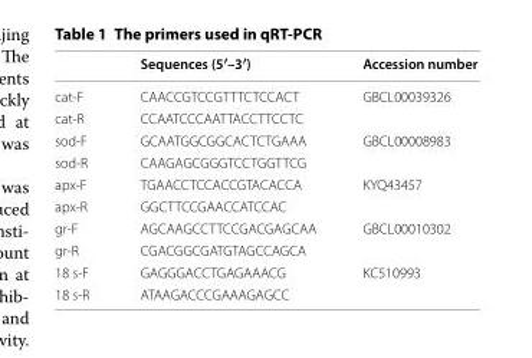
<table><thead><tr><td></td><td>Sequences (5′–3′)</td><td>Accession number</td></tr></thead><tbody><tr><td>cat-F</td><td>CAACCGTCCGTTTCTCCACT</td><td rowspan="2">GBCL00039326</td></tr><tr><td>cat-R</td><td>CCAATCCCAATTACCTTCCTC</td></tr><tr><td>sod-F</td><td>GCAATGGCGGCACTCTGAAA</td><td rowspan="2">GBCL00008983</td></tr><tr><td>sod-R</td><td>CAAGAGCGGGTCCTGGTTCG</td></tr><tr><td>apx-F</td><td>TGAACCTCCACCGTACACCA</td><td rowspan="2">KYQ43457</td></tr><tr><td>apx-R</td><td>GGCTTCCGAACCATCCAC</td></tr><tr><td>gr-F</td><td>AGCAAGCCTTCCGACGAGCAA</td><td rowspan="2">GBCL00010302</td></tr><tr><td>gr-R</td><td>CGACGGCGATGTAGCCAGCA</td></tr><tr><td>18 s-F</td><td>GAGGGACCTGAGAAACG</td><td rowspan="2">KC510993</td></tr><tr><td>18 s-R</td><td>ATAAGACCCGAAAGAGCC</td></tr></tbody></table>